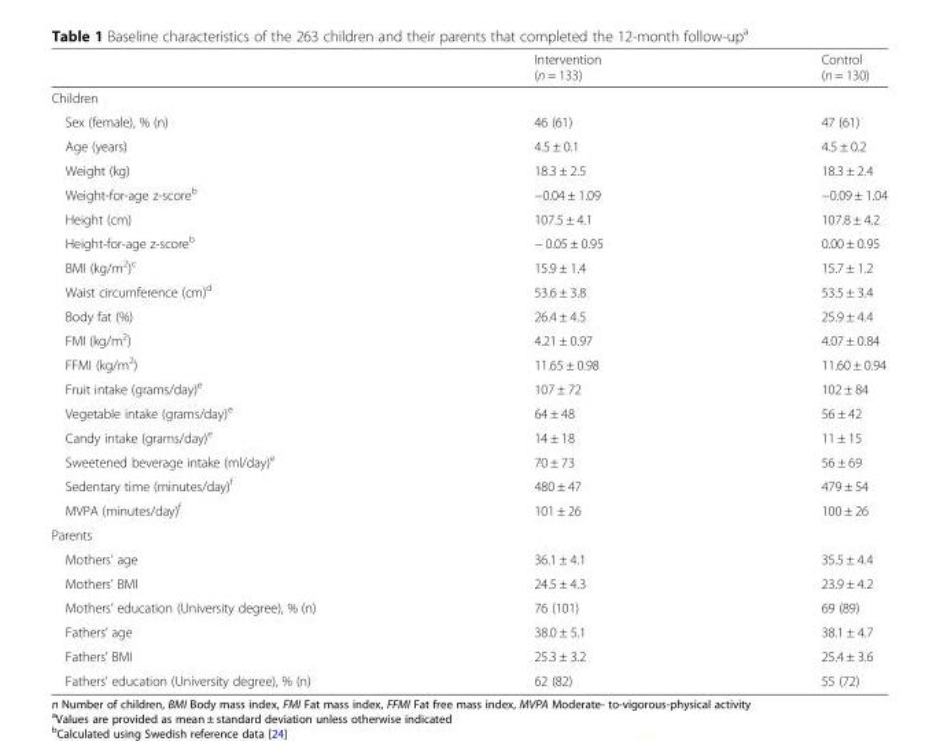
<table><thead><tr><td></td><td>Intervention (n = 133)</td><td>Control (n = 130)</td></tr></thead><tbody><tr><td colspan="3">Children</td></tr><tr><td>Sex (female), % (n)</td><td>46 (61)</td><td>47 (61)</td></tr><tr><td>Age (years)</td><td>4.5 ± 0.1</td><td>4.5 ± 0.2</td></tr><tr><td>Weight (kg)</td><td>18.3 ± 2.5</td><td>18.3 ± 2.4</td></tr><tr><td>Weight-for-age z-score<sup>b</sup></td><td>−0.04 ± 1.09</td><td>−0.09 ± 1.04</td></tr><tr><td>Height (cm)</td><td>107.5 ± 4.1</td><td>107.8 ± 4.2</td></tr><tr><td>Height-for-age z-score<sup>b</sup></td><td>− 0.05 ± 0.95</td><td>0.00 ± 0.95</td></tr><tr><td>BMI (kg/m<sup>2</sup>)<sup>c</sup></td><td>15.9 ± 1.4</td><td>15.7 ± 1.2</td></tr><tr><td>Waist circumference (cm)<sup>d</sup></td><td>53.6 ± 3.8</td><td>53.5 ± 3.4</td></tr><tr><td>Body fat (%)</td><td>26.4 ± 4.5</td><td>25.9 ± 4.4</td></tr><tr><td>FMI (kg/m<sup>2</sup>)</td><td>4.21 ± 0.97</td><td>4.07 ± 0.84</td></tr><tr><td>FFMI (kg/m<sup>2</sup>)</td><td>11.65 ± 0.98</td><td>11.60 ± 0.94</td></tr><tr><td>Fruit intake (grams/day)<sup>e</sup></td><td>107 ± 72</td><td>102 ± 84</td></tr><tr><td>Vegetable intake (grams/day)<sup>e</sup></td><td>64 ± 48</td><td>56 ± 42</td></tr><tr><td>Candy intake (grams/day)<sup>e</sup></td><td>14 ± 18</td><td>11 ± 15</td></tr><tr><td>Sweetened beverage intake (ml/day)<sup>e</sup></td><td>70 ± 73</td><td>56 ± 69</td></tr><tr><td>Sedentary time (minutes/day)<sup>f</sup></td><td>480 ± 47</td><td>479 ± 54</td></tr><tr><td>MVPA (minutes/day)<sup>f</sup></td><td>101 ± 26</td><td>100 ± 26</td></tr><tr><td colspan="3">Parents</td></tr><tr><td>Mothers’ age</td><td>36.1 ± 4.1</td><td>35.5 ± 4.4</td></tr><tr><td>Mothers’ BMI</td><td>24.5 ± 4.3</td><td>23.9 ± 4.2</td></tr><tr><td>Mothers’ education (University degree), % (n)</td><td>76 (101)</td><td>69 (89)</td></tr><tr><td>Fathers’ age</td><td>38.0 ± 5.1</td><td>38.1 ± 4.7</td></tr><tr><td>Fathers’ BMI</td><td>25.3 ± 3.2</td><td>25.4 ± 3.6</td></tr><tr><td>Fathers’ education (University degree), % (n)</td><td>62 (82)</td><td>55 (72)</td></tr></tbody></table>